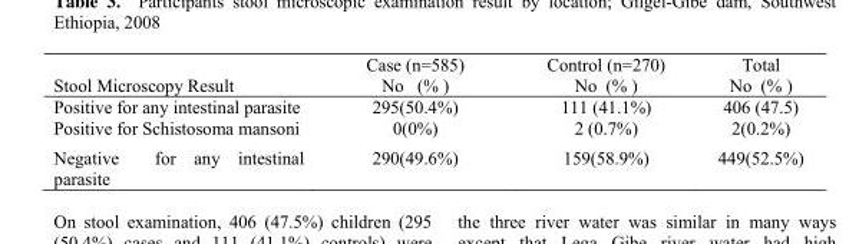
<table><thead><tr><td>Stool Microscopy Result</td><td>Case (n=585) No (% )</td><td>Control (n=270) No (% )</td><td>Total No (% )</td></tr></thead><tbody><tr><td>Positive for any intestinal parasite</td><td>295(50.4%)</td><td>111 (41.1%)</td><td>406 (47.5)</td></tr><tr><td>Positive for Schistosoma mansoni</td><td>0(0%)</td><td>2 (0.7%)</td><td>2(0.2%)</td></tr><tr><td>Negative for any intestinal parasite</td><td>290(49.6%)</td><td>159(58.9%)</td><td>449(52.5%)</td></tr></tbody></table>